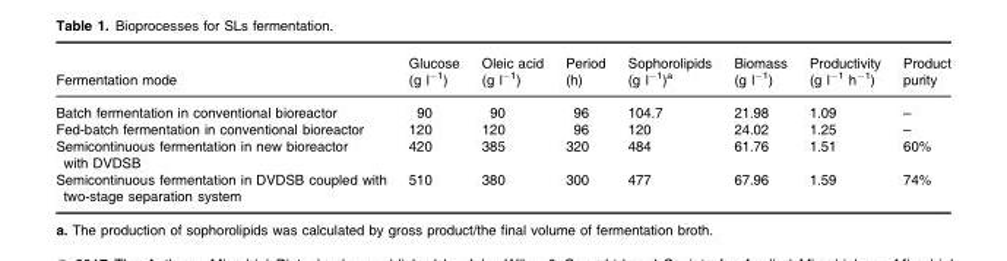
<table><thead><tr><td>Fermentation mode</td><td>Glucose (g l<sup>−1</sup>)</td><td>Oleic acid (g l<sup>−1</sup>)</td><td>Period (h)</td><td>Sophorolipids (g l<sup>−1</sup>)<sup>a</sup></td><td>Biomass (g l<sup>−1</sup>)</td><td>Productivity (g l<sup>−1</sup> h<sup>−1</sup>)</td><td>Product purity</td></tr></thead><tbody><tr><td>Batch fermentation in conventional bioreactor</td><td>90</td><td>90</td><td>96</td><td>104.7</td><td>21.98</td><td>1.09</td><td>–</td></tr><tr><td>Fed-batch fermentation in conventional bioreactor</td><td>120</td><td>120</td><td>96</td><td>120</td><td>24.02</td><td>1.25</td><td>–</td></tr><tr><td>Semicontinuous fermentation in new bioreactor with DVDSB</td><td>420</td><td>385</td><td>320</td><td>484</td><td>61.76</td><td>1.51</td><td>60%</td></tr><tr><td>Semicontinuous fermentation in DVDSB coupled with two-stage separation system</td><td>510</td><td>380</td><td>300</td><td>477</td><td>67.96</td><td>1.59</td><td>74%</td></tr></tbody></table>